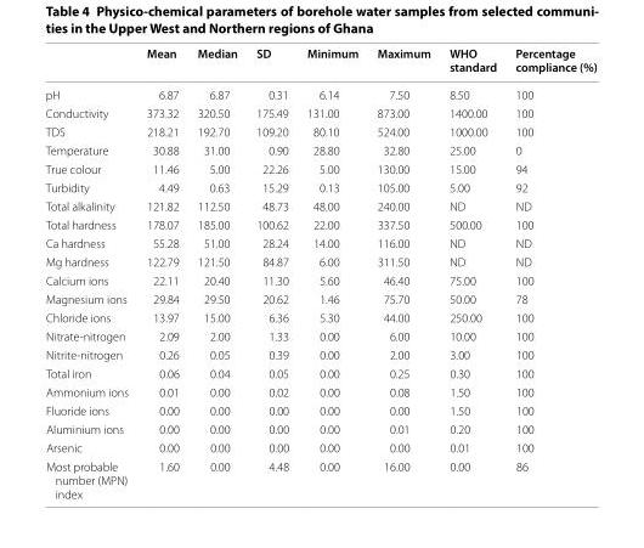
<table><thead><tr><td></td><td>Mean</td><td>Median</td><td>SD</td><td>Minimum</td><td>Maximum</td><td>WHO standard</td><td>Percentage compliance (%)</td></tr></thead><tbody><tr><td>pH</td><td>6.87</td><td>6.87</td><td>0.31</td><td>6.14</td><td>7.50</td><td>8.50</td><td>100</td></tr><tr><td>Conductivity</td><td>373.32</td><td>320.50</td><td>175.49</td><td>131.00</td><td>873.00</td><td>1400.00</td><td>100</td></tr><tr><td>TDS</td><td>218.21</td><td>192.70</td><td>109.20</td><td>80.10</td><td>524.00</td><td>1000.00</td><td>100</td></tr><tr><td>Temperature</td><td>30.88</td><td>31.00</td><td>0.90</td><td>28.80</td><td>32.80</td><td>25.00</td><td>0</td></tr><tr><td>True colour</td><td>11.46</td><td>5.00</td><td>22.26</td><td>5.00</td><td>130.00</td><td>15.00</td><td>94</td></tr><tr><td>Turbidity</td><td>4.49</td><td>0.63</td><td>15.29</td><td>0.13</td><td>105.00</td><td>5.00</td><td>92</td></tr><tr><td>Total alkalinity</td><td>121.82</td><td>112.50</td><td>48.73</td><td>48.00</td><td>240.00</td><td>ND</td><td>ND</td></tr><tr><td>Total hardness</td><td>178.07</td><td>185.00</td><td>100.62</td><td>22.00</td><td>337.50</td><td>500.00</td><td>100</td></tr><tr><td>Ca hardness</td><td>55.28</td><td>51.00</td><td>28.24</td><td>14.00</td><td>116.00</td><td>ND</td><td>ND</td></tr><tr><td>Mg hardness</td><td>122.79</td><td>121.50</td><td>84.87</td><td>6.00</td><td>311.50</td><td>ND</td><td>ND</td></tr><tr><td>Calcium ions</td><td>22.11</td><td>20.40</td><td>11.30</td><td>5.60</td><td>46.40</td><td>75.00</td><td>100</td></tr><tr><td>Magnesium ions</td><td>29.84</td><td>29.50</td><td>20.62</td><td>1.46</td><td>75.70</td><td>50.00</td><td>78</td></tr><tr><td>Chloride ions</td><td>13.97</td><td>15.00</td><td>6.36</td><td>5.30</td><td>44.00</td><td>250.00</td><td>100</td></tr><tr><td>Nitrate-nitrogen</td><td>2.09</td><td>2.00</td><td>1.33</td><td>0.00</td><td>6.00</td><td>10.00</td><td>100</td></tr><tr><td>Nitrite-nitrogen</td><td>0.26</td><td>0.05</td><td>0.39</td><td>0.00</td><td>2.00</td><td>3.00</td><td>100</td></tr><tr><td>Total iron</td><td>0.06</td><td>0.04</td><td>0.05</td><td>0.00</td><td>0.25</td><td>0.30</td><td>100</td></tr><tr><td>Ammonium ions</td><td>0.01</td><td>0.00</td><td>0.02</td><td>0.00</td><td>0.08</td><td>1.50</td><td>100</td></tr><tr><td>Fluoride ions</td><td>0.00</td><td>0.00</td><td>0.00</td><td>0.00</td><td>0.00</td><td>1.50</td><td>100</td></tr><tr><td>Aluminium ions</td><td>0.00</td><td>0.00</td><td>0.00</td><td>0.00</td><td>0.01</td><td>0.20</td><td>100</td></tr><tr><td>Arsenic</td><td>0.00</td><td>0.00</td><td>0.00</td><td>0.00</td><td>0.00</td><td>0.01</td><td>100</td></tr><tr><td>Most probable number (MPN) index</td><td>1.60</td><td>0.00</td><td>4.48</td><td>0.00</td><td>16.00</td><td>0.00</td><td>86</td></tr></tbody></table>